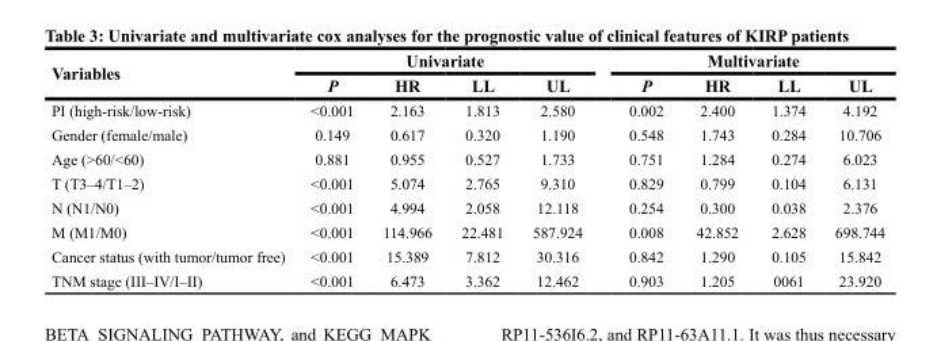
<table><thead><tr><td rowspan="2">Variables</td><td colspan="4">Univariate</td><td colspan="4">Multivariate</td></tr><tr><td>P</td><td>HR</td><td>LL</td><td>UL</td><td>P</td><td>HR</td><td>LL</td><td>UL</td></tr></thead><tbody><tr><td>PI (high-risk/low-risk)</td><td>&lt;0.001</td><td>2.163</td><td>1.813</td><td>2.580</td><td>0.002</td><td>2.400</td><td>1.374</td><td>4.192</td></tr><tr><td>Gender (female/male)</td><td>0.149</td><td>0.617</td><td>0.320</td><td>1.190</td><td>0.548</td><td>1.743</td><td>0.284</td><td>10.706</td></tr><tr><td>Age (&gt;60/&lt;60)</td><td>0.881</td><td>0.955</td><td>0.527</td><td>1.733</td><td>0.751</td><td>1.284</td><td>0.274</td><td>6.023</td></tr><tr><td>T (T3–4/T1–2)</td><td>&lt;0.001</td><td>5.074</td><td>2.765</td><td>9.310</td><td>0.829</td><td>0.799</td><td>0.104</td><td>6.131</td></tr><tr><td>N (N1/N0)</td><td>&lt;0.001</td><td>4.994</td><td>2.058</td><td>12.118</td><td>0.254</td><td>0.300</td><td>0.038</td><td>2.376</td></tr><tr><td>M (M1/M0)</td><td>&lt;0.001</td><td>114.966</td><td>22.481</td><td>587.924</td><td>0.008</td><td>42.852</td><td>2.628</td><td>698.744</td></tr><tr><td>Cancer status (with tumor/tumor free)</td><td>&lt;0.001</td><td>15.389</td><td>7.812</td><td>30.316</td><td>0.842</td><td>1.290</td><td>0.105</td><td>15.842</td></tr><tr><td>TNM stage (III–IV/I–II)</td><td>&lt;0.001</td><td>6.473</td><td>3.362</td><td>12.462</td><td>0.903</td><td>1.205</td><td>0061</td><td>23.920</td></tr></tbody></table>